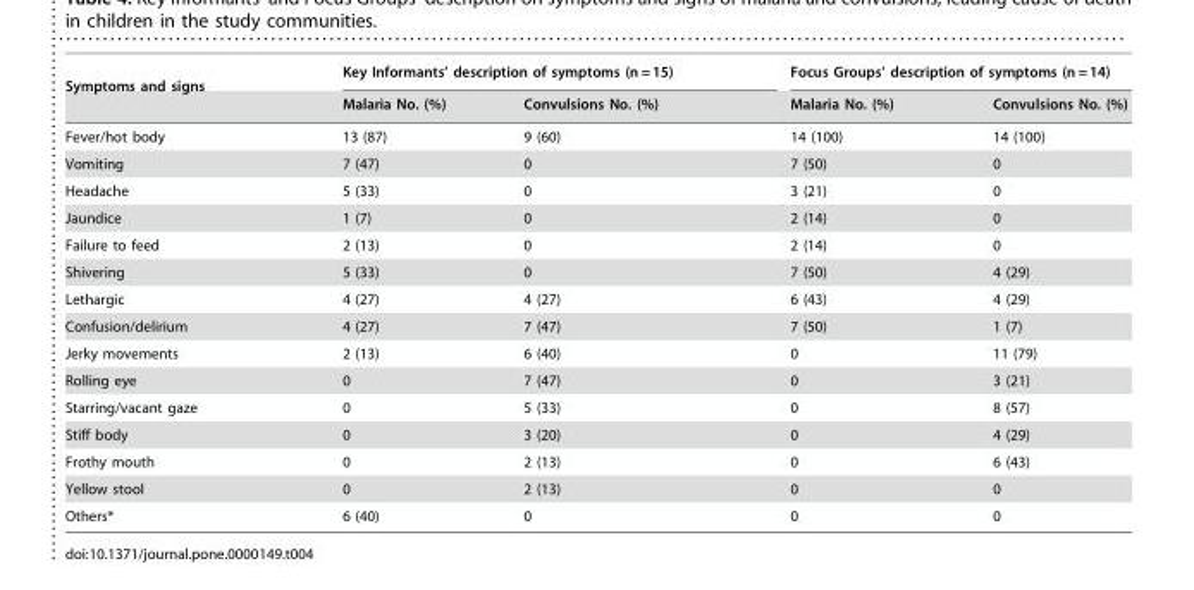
<table><thead><tr><td rowspan="2">Symptoms and signs</td><td colspan="2">Key Informants’ description of symptoms (n = 15)</td><td colspan="2">Focus Groups’ description of symptoms (n = 14)</td></tr><tr><td>Malaria No. (%)</td><td>Convulsions No. (%)</td><td>Malaria No. (%)</td><td>Convulsions No. (%)</td></tr></thead><tbody><tr><td>Fever/hot body</td><td>13 (87)</td><td>9 (60)</td><td>14 (100)</td><td>14 (100)</td></tr><tr><td>Vomiting</td><td>7 (47)</td><td>0</td><td>7 (50)</td><td>0</td></tr><tr><td>Headache</td><td>5 (33)</td><td>0</td><td>3 (21)</td><td>0</td></tr><tr><td>Jaundice</td><td>1 (7)</td><td>0</td><td>2 (14)</td><td>0</td></tr><tr><td>Failure to feed</td><td>2 (13)</td><td>0</td><td>2 (14)</td><td>0</td></tr><tr><td>Shivering</td><td>5 (33)</td><td>0</td><td>7 (50)</td><td>4 (29)</td></tr><tr><td>Lethargic</td><td>4 (27)</td><td>4 (27)</td><td>6 (43)</td><td>4 (29)</td></tr><tr><td>Confusion/delirium</td><td>4 (27)</td><td>7 (47)</td><td>7 (50)</td><td>1 (7)</td></tr><tr><td>Jerky movements</td><td>2 (13)</td><td>6 (40)</td><td>0</td><td>11 (79)</td></tr><tr><td>Rolling eye</td><td>0</td><td>7 (47)</td><td>0</td><td>3 (21)</td></tr><tr><td>Starring/vacant gaze</td><td>0</td><td>5 (33)</td><td>0</td><td>8 (57)</td></tr><tr><td>Stiff body</td><td>0</td><td>3 (20)</td><td>0</td><td>4 (29)</td></tr><tr><td>Frothy mouth</td><td>0</td><td>2 (13)</td><td>0</td><td>6 (43)</td></tr><tr><td>Yellow stool</td><td>0</td><td>2 (13)</td><td>0</td><td>0</td></tr><tr><td>Others*</td><td>6 (40)</td><td>0</td><td>0</td><td>0</td></tr></tbody></table>